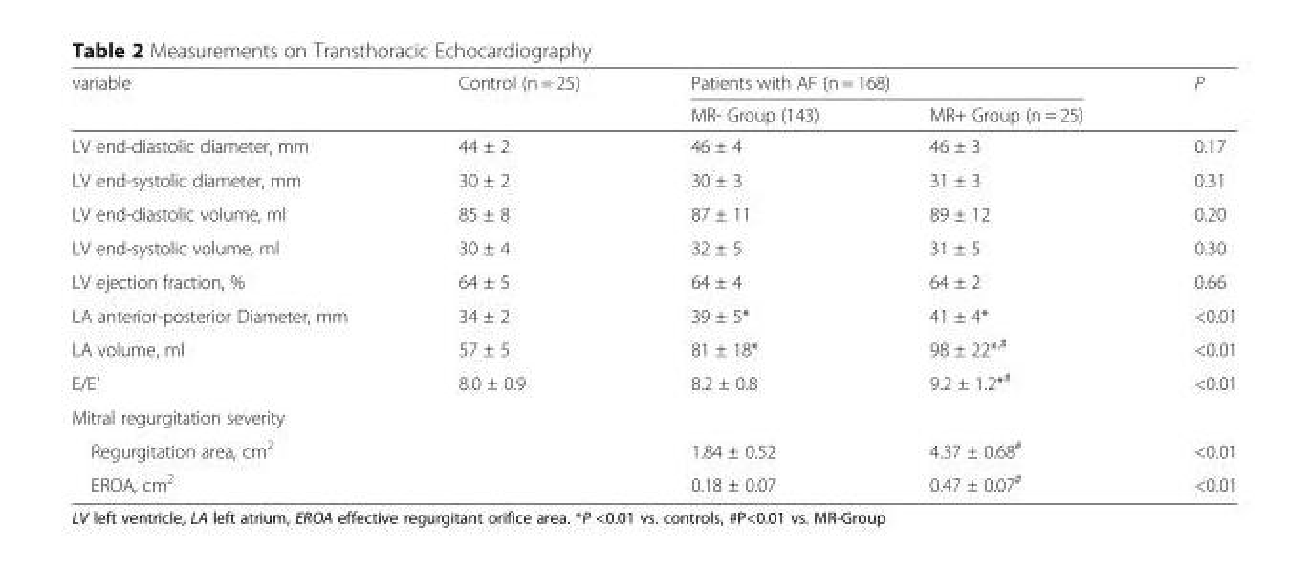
<table><thead><tr><td rowspan="2">variable</td><td rowspan="2">Control (n = 25)</td><td colspan="2">Patients with AF (n = 168)</td><td rowspan="2">P</td></tr><tr><td>MR- Group (143)</td><td>MR+ Group (n = 25)</td></tr></thead><tbody><tr><td>LV end-diastolic diameter, mm</td><td>44 ± 2</td><td>46 ± 4</td><td>46 ± 3</td><td>0.17</td></tr><tr><td>LV end-systolic diameter, mm</td><td>30 ± 2</td><td>30 ± 3</td><td>31 ± 3</td><td>0.31</td></tr><tr><td>LV end-diastolic volume, ml</td><td>85 ± 8</td><td>87 ± 11</td><td>89 ± 12</td><td>0.20</td></tr><tr><td>LV end-systolic volume, ml</td><td>30 ± 4</td><td>32 ± 5</td><td>31 ± 5</td><td>0.30</td></tr><tr><td>LV ejection fraction, %</td><td>64 ± 5</td><td>64 ± 4</td><td>64 ± 2</td><td>0.66</td></tr><tr><td>LA anterior-posterior Diameter, mm</td><td>34 ± 2</td><td>39 ± 5*</td><td>41 ± 4*</td><td>&lt;0.01</td></tr><tr><td>LA volume, ml</td><td>57 ± 5</td><td>81 ± 18*</td><td>98 ± 22*<sup>,#</sup></td><td>&lt;0.01</td></tr><tr><td>E/E’</td><td>8.0 ± 0.9</td><td>8.2 ± 0.8</td><td>9.2 ± 1.2*<sup>#</sup></td><td>&lt;0.01</td></tr><tr><td colspan="5">Mitral regurgitation severity</td></tr><tr><td>Regurgitation area, cm<sup>2</sup></td><td></td><td>1.84 ± 0.52</td><td>4.37 ± 0.68<sup>#</sup></td><td>&lt;0.01</td></tr><tr><td>EROA, cm<sup>2</sup></td><td></td><td>0.18 ± 0.07</td><td>0.47 ± 0.07<sup>#</sup></td><td>&lt;0.01</td></tr></tbody></table>